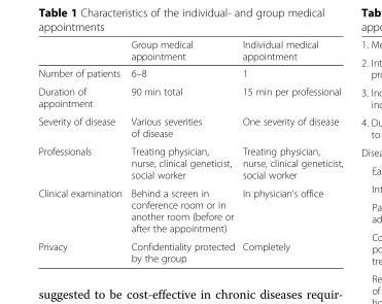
<table><thead><tr><td></td><td>Group medical appointment</td><td>Individual medical appointment</td></tr></thead><tbody><tr><td>Number of patients</td><td>6–8</td><td>1</td></tr><tr><td>Duration of appointment</td><td>90 min total</td><td>15 min per professional</td></tr><tr><td>Severity of disease</td><td>Various severities of disease</td><td>One severity of disease</td></tr><tr><td>Professionals</td><td>Treating physician, nurse, clinical geneticist, social worker</td><td>Treating physician, nurse, clinical geneticist, social worker</td></tr><tr><td>Clinical examination</td><td>Behind a screen in conference room or in another room (before or after the appointment)</td><td>In physician’s office</td></tr><tr><td>Privacy</td><td>Confidentiality protected by the group</td><td>Completely</td></tr></tbody></table>